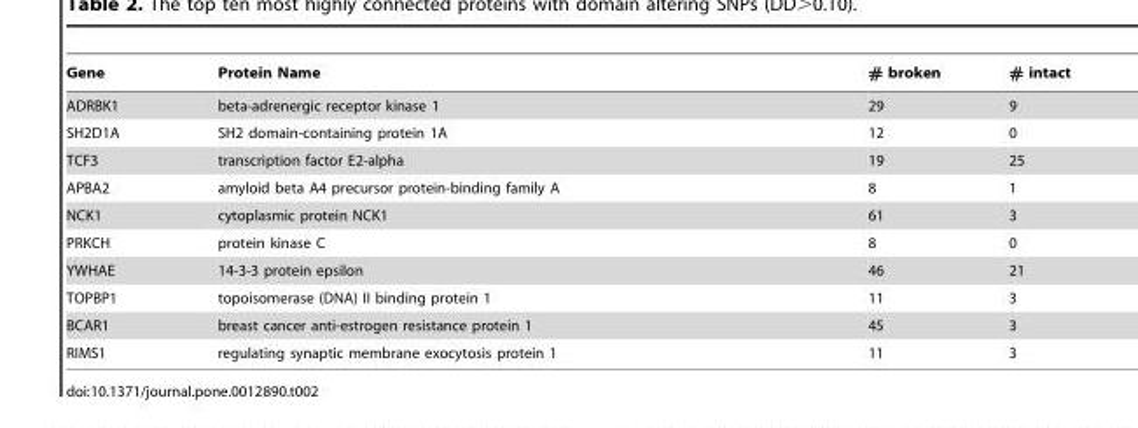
<table><thead><tr><td>Gene</td><td>Protein Name</td><td># broken</td><td># intact</td></tr></thead><tbody><tr><td>ADRBK1</td><td>beta-adrenergic receptor kinase 1</td><td>29</td><td>9</td></tr><tr><td>SH2D1A</td><td>SH2 domain-containing protein 1A</td><td>12</td><td>0</td></tr><tr><td>TCF3</td><td>transcription factor E2-alpha</td><td>19</td><td>25</td></tr><tr><td>APBA2</td><td>amyloid beta A4 precursor protein-binding family A</td><td>8</td><td>1</td></tr><tr><td>NCK1</td><td>cytoplasmic protein NCK1</td><td>61</td><td>3</td></tr><tr><td>PRKCH</td><td>protein kinase C</td><td>8</td><td>0</td></tr><tr><td>YWHAE</td><td>14-3-3 protein epsilon</td><td>46</td><td>21</td></tr><tr><td>TOPBP1</td><td>topoisomerase (DNA) II binding protein 1</td><td>11</td><td>3</td></tr><tr><td>BCAR1</td><td>breast cancer anti-estrogen resistance protein 1</td><td>45</td><td>3</td></tr><tr><td>RIMS1</td><td>regulating synaptic membrane exocytosis protein 1</td><td>11</td><td>3</td></tr></tbody></table>